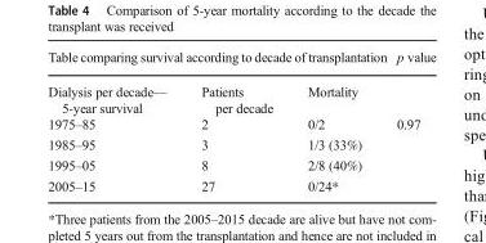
<table><thead><tr><td colspan="3">Table comparing survival according to decade of transplantation</td><td rowspan="2">p value</td></tr><tr><td>Dialysis per decade— 5-year survival</td><td>Patients per decade</td><td>Mortality</td></tr></thead><tbody><tr><td>1975–85</td><td>2</td><td>0/2</td><td>0.97</td></tr><tr><td>1985–95</td><td>3</td><td>1/3 (33%)</td><td></td></tr><tr><td>1995–05</td><td>8</td><td>2/8 (40%)</td><td></td></tr><tr><td>2005–15</td><td>27</td><td>0/24*</td><td></td></tr></tbody></table>